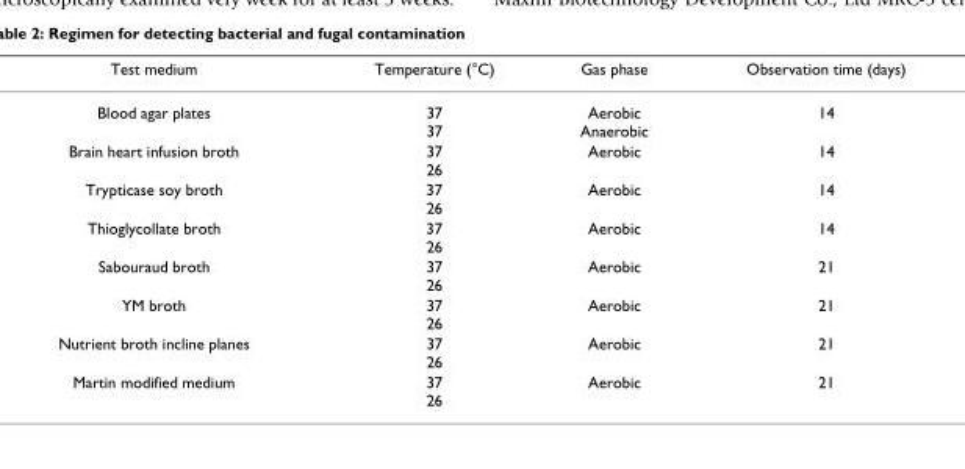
<table><thead><tr><td>Test medium</td><td>Temperature (°C)</td><td>Gas phase</td><td>Observation time (days)</td></tr></thead><tbody><tr><td>Blood agar plates</td><td>37 37</td><td>Aerobic Anaerobic</td><td>14</td></tr><tr><td>Brain heart infusion broth</td><td>37 26</td><td>Aerobic</td><td>14</td></tr><tr><td>Trypticase soy broth</td><td>37 26</td><td>Aerobic</td><td>14</td></tr><tr><td>Thioglycollate broth</td><td>37 26</td><td>Aerobic</td><td>14</td></tr><tr><td>Sabouraud broth</td><td>37 26</td><td>Aerobic</td><td>21</td></tr><tr><td>YM broth</td><td>37 26</td><td>Aerobic</td><td>21</td></tr><tr><td>Nutrient broth incline planes</td><td>37 26</td><td>Aerobic</td><td>21</td></tr><tr><td>Martin modified medium</td><td>37 26</td><td>Aerobic</td><td>21</td></tr></tbody></table>